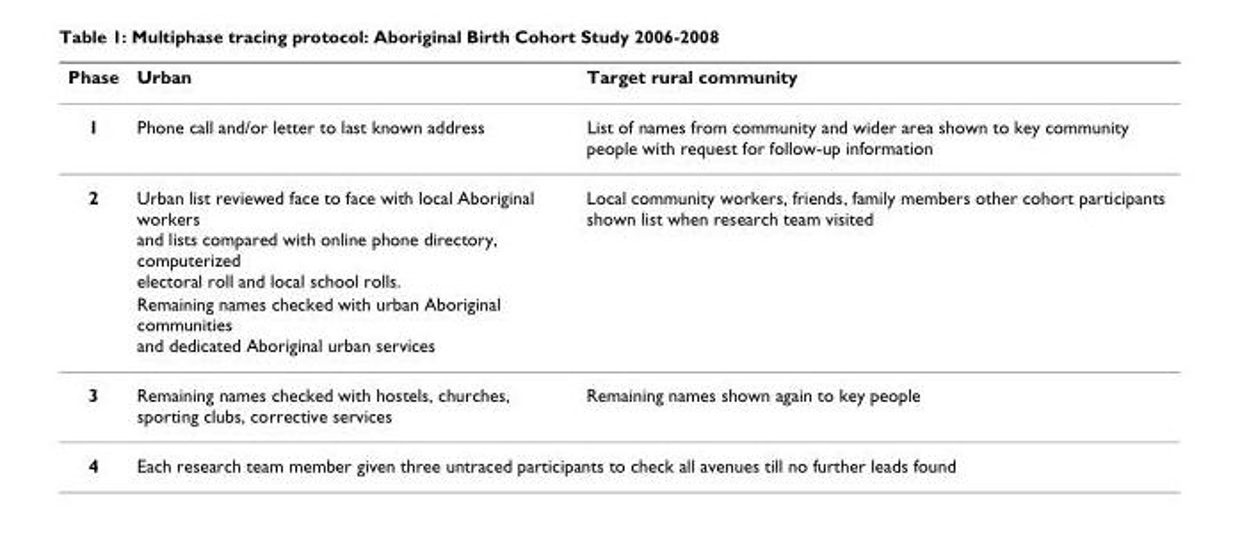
<table><thead><tr><td>Phase</td><td>Urban</td><td>Target rural community</td></tr></thead><tbody><tr><td>1</td><td>Phone call and/or letter to last known address</td><td>List of names from community and wider area shown to key community people with request for follow-up information</td></tr><tr><td rowspan="2">2</td><td>Urban list reviewed face to face with local Aboriginal workers and lists compared with online phone directory, computerized electoral roll and local school rolls.</td><td>Local community workers, friends, family members other cohort participants shown list when research team visited</td></tr><tr><td>Remaining names checked with urban Aboriginal communities and dedicated Aboriginal urban services</td><td></td></tr><tr><td>3</td><td>Remaining names checked with hostels, churches, sporting clubs, corrective services</td><td>Remaining names shown again to key people</td></tr><tr><td>4</td><td colspan="2">Each research team member given three untraced participants to check all avenues till no further leads found</td></tr></tbody></table>